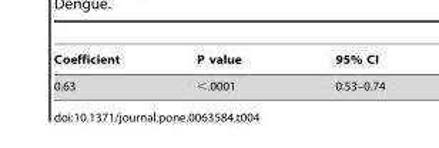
<table><thead><tr><td>Coefficient</td><td>P value</td><td>95% CI</td></tr></thead><tbody><tr><td>0.63</td><td>&lt;.0001</td><td>0.53–0.74</td></tr></tbody></table>